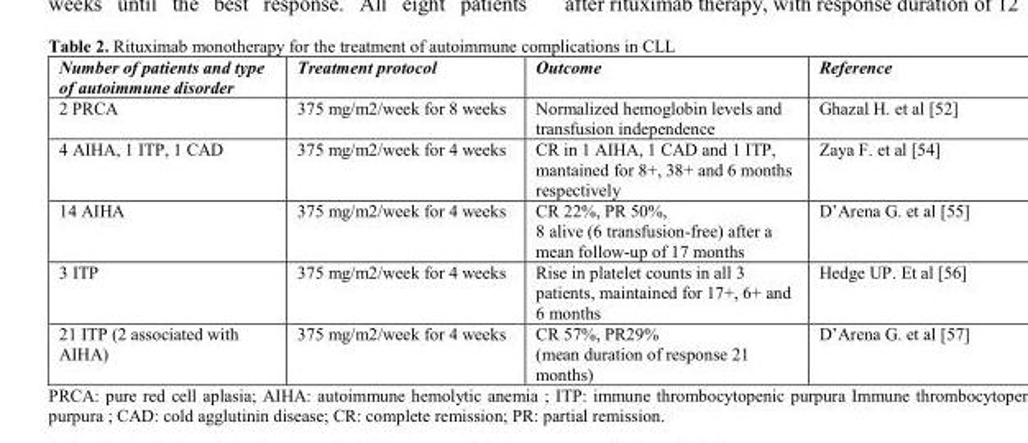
<table><thead><tr><td>Number of patients and type of autoimmune disorder</td><td>Treatment protocol</td><td>Outcome</td><td>Reference</td></tr></thead><tbody><tr><td>2 PRCA</td><td>375 mg/m2/week for 8 weeks</td><td>Normalized hemoglobin levels and transfusion independence</td><td>Ghazal H. et al [52]</td></tr><tr><td>4 AIHA, 1 ITP, 1 CAD</td><td>375 mg/m2/week for 4 weeks</td><td>CR in 1 AIHA, 1 CAD and 1 ITP, mantained for 8+, 38+ and 6 months respectively</td><td>Zaya F. et al [54]</td></tr><tr><td>14 AIHA</td><td>375 mg/m2/week for 4 weeks</td><td>CR 22%, PR 50%, 8 alive (6 transfusion-free) after a mean follow-up of 17 months</td><td>D’Arena G. et al [55]</td></tr><tr><td>3 ITP</td><td>375 mg/m2/week for 4 weeks</td><td>Rise in platelet counts in all 3 patients, maintained for 17+, 6+ and 6 months</td><td>Hedge UP. Et al [56]</td></tr><tr><td>21 ITP (2 associated with AIHA)</td><td>375 mg/m2/week for 4 weeks</td><td>CR 57%, PR29% (mean duration of response 21 months)</td><td>D’Arena G. et al [57]</td></tr></tbody></table>